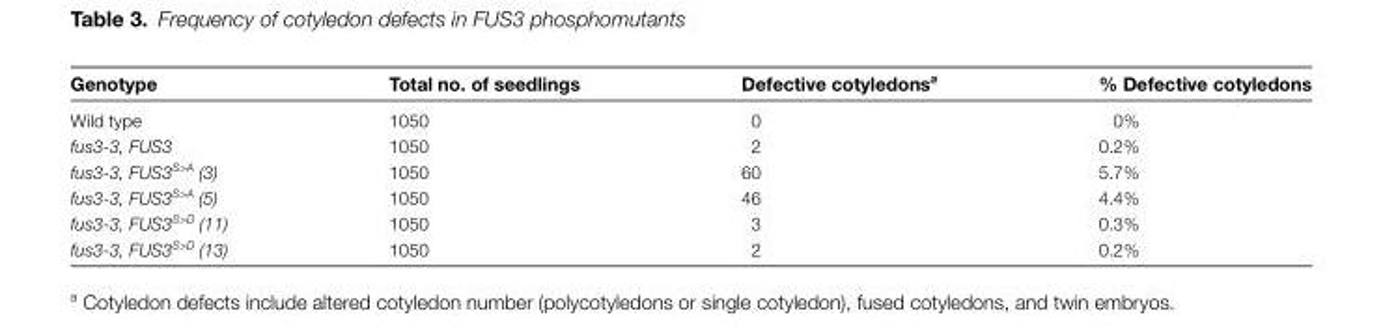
<table><thead><tr><td>Genotype</td><td>Total no. of seedlings</td><td>Defective cotyledons<sup>a</sup></td><td>% Defective cotyledons</td></tr></thead><tbody><tr><td>Wild type</td><td>1050</td><td>0</td><td>0%</td></tr><tr><td>fus3-3, FUS3</td><td>1050</td><td>2</td><td>0.2%</td></tr><tr><td>fus3-3, FUS3<sup>S&gt;A</sup> (3)</td><td>1050</td><td>60</td><td>5.7%</td></tr><tr><td>fus3-3, FUS3<sup>S&gt;A</sup> (5)</td><td>1050</td><td>46</td><td>4.4%</td></tr><tr><td>fus3-3, FUS3<sup>S&gt;D</sup> (11)</td><td>1050</td><td>3</td><td>0.3%</td></tr><tr><td>fus3-3, FUS3<sup>S&gt;D</sup> (13)</td><td>1050</td><td>2</td><td>0.2%</td></tr></tbody></table>